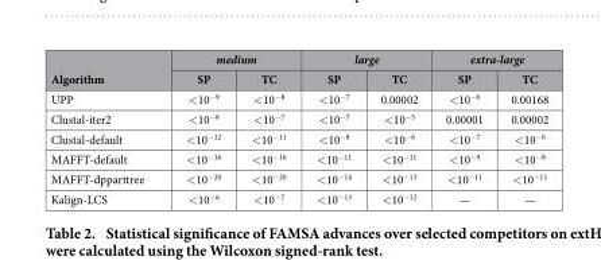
<table><thead><tr><td rowspan="2">Algorithm</td><td colspan="2">medium</td><td colspan="2">large</td><td colspan="2">extra-large</td></tr><tr><td>SP</td><td>TC</td><td>SP</td><td>TC</td><td>SP</td><td>TC</td></tr></thead><tbody><tr><td>UPP</td><td>&lt; 10<sup>−9</sup></td><td>&lt; 10<sup>−8</sup></td><td>&lt; 10<sup>−7</sup></td><td>0.00002</td><td>&lt; 10<sup>−6</sup></td><td>0.00168</td></tr><tr><td>Clustal-iter2</td><td>&lt; 10<sup>−8</sup></td><td>&lt; 10<sup>−7</sup></td><td>&lt; 10<sup>−7</sup></td><td>&lt; 10<sup>−5</sup></td><td>0.00001</td><td>0.00002</td></tr><tr><td>Clustal-default</td><td>&lt; 10<sup>−12</sup></td><td>&lt; 10<sup>−11</sup></td><td>&lt; 10<sup>−8</sup></td><td>&lt; 10<sup>−6</sup></td><td>&lt; 10<sup>−7</sup></td><td>&lt; 10<sup>−6</sup></td></tr><tr><td>MAFFT-default</td><td>&lt; 10<sup>−16</sup></td><td>&lt; 10<sup>−16</sup></td><td>&lt; 10<sup>−11</sup></td><td>&lt; 10<sup>−11</sup></td><td>&lt; 10<sup>−9</sup></td><td>&lt; 10<sup>−8</sup></td></tr><tr><td>MAFFT-dpparttree</td><td>&lt; 10<sup>−20</sup></td><td>&lt; 10<sup>−20</sup></td><td>&lt; 10<sup>−14</sup></td><td>&lt; 10<sup>−13</sup></td><td>&lt; 10<sup>−11</sup></td><td>&lt; 10<sup>−11</sup></td></tr><tr><td>Kalign-LCS</td><td>&lt; 10<sup>−6</sup></td><td>&lt; 10<sup>−7</sup></td><td>&lt; 10<sup>−13</sup></td><td>&lt; 10<sup>−12</sup></td><td>—</td><td>—</td></tr></tbody></table>